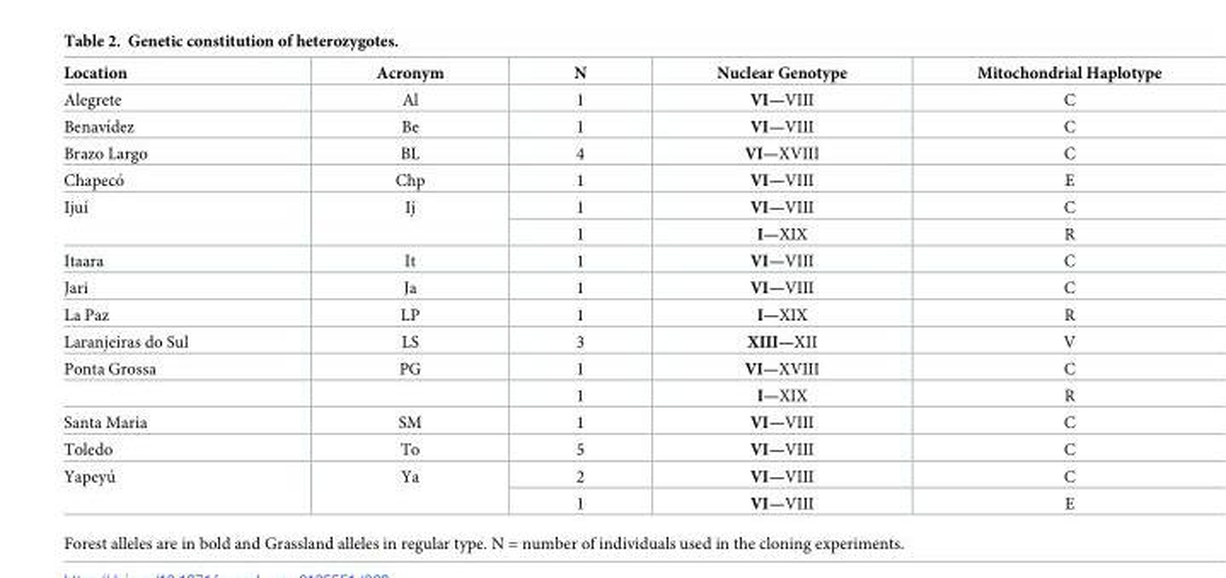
<table><thead><tr><td>Location</td><td>Acronym</td><td>N</td><td>Nuclear Genotype</td><td>Mitochondrial Haplotype</td></tr></thead><tbody><tr><td>Alegrete</td><td>Al</td><td>1</td><td>VI—VIII</td><td>C</td></tr><tr><td>Benavı´dez</td><td>Be</td><td>1</td><td>VI—VIII</td><td>C</td></tr><tr><td>Brazo Largo</td><td>BL</td><td>4</td><td>VI—XVIII</td><td>C</td></tr><tr><td>Chapeco´</td><td>Chp</td><td>1</td><td>VI—VIII</td><td>E</td></tr><tr><td rowspan="2">Ijuı´</td><td rowspan="2">Ij</td><td>1</td><td>VI—VIII</td><td>C</td></tr><tr><td>1</td><td>I—XIX</td><td>R</td></tr><tr><td>Itaara</td><td>It</td><td>1</td><td>VI—VIII</td><td>C</td></tr><tr><td>Jari</td><td>Ja</td><td>1</td><td>VI—VIII</td><td>C</td></tr><tr><td>La Paz</td><td>LP</td><td>1</td><td>I—XIX</td><td>R</td></tr><tr><td>Laranjeiras do Sul</td><td>LS</td><td>3</td><td>XIII—XII</td><td>V</td></tr><tr><td rowspan="2">Ponta Grossa</td><td>PG</td><td>1</td><td>VI—XVIII</td><td>C</td></tr><tr><td></td><td>1</td><td>I—XIX</td><td>R</td></tr><tr><td>Santa Maria</td><td>SM</td><td>1</td><td>VI—VIII</td><td>C</td></tr><tr><td>Toledo</td><td>To</td><td>5</td><td>VI—VIII</td><td>C</td></tr><tr><td rowspan="2">Yapeyu´</td><td rowspan="2">Ya</td><td>2</td><td>VI—VIII</td><td>C</td></tr><tr><td>1</td><td>VI—VIII</td><td>E</td></tr></tbody></table>